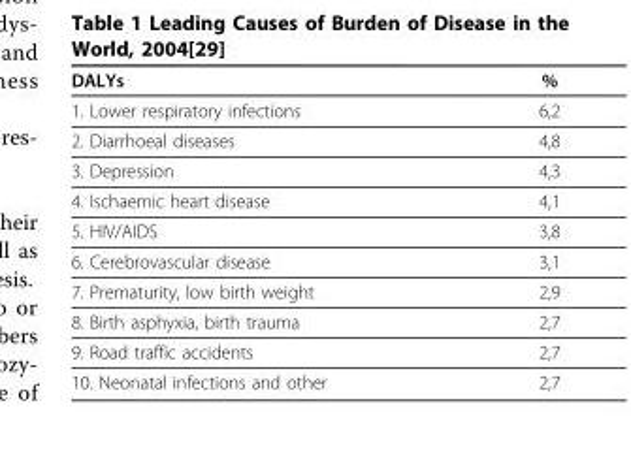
<table><thead><tr><td>DALYs</td><td>%</td></tr></thead><tbody><tr><td>1. Lower respiratory infections</td><td>6,2</td></tr><tr><td>2. Diarrhoeal diseases</td><td>4,8</td></tr><tr><td>3. Depression</td><td>4,3</td></tr><tr><td>4. Ischaemic heart disease</td><td>4,1</td></tr><tr><td>5. HIV/AIDS</td><td>3,8</td></tr><tr><td>6. Cerebrovascular disease</td><td>3,1</td></tr><tr><td>7. Prematurity, low birth weight</td><td>2,9</td></tr><tr><td>8. Birth asphyxia, birth trauma</td><td>2,7</td></tr><tr><td>9. Road traffic accidents</td><td>2,7</td></tr><tr><td>10. Neonatal infections and other</td><td>2,7</td></tr></tbody></table>